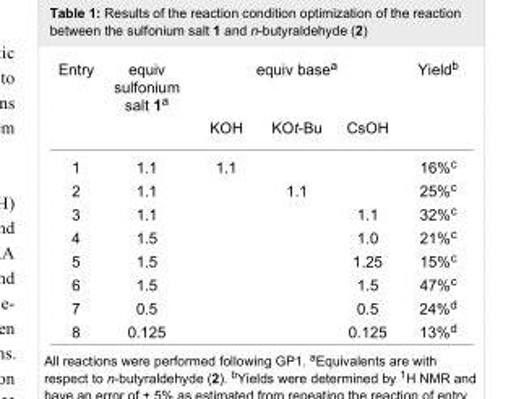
<table><tbody><tr><td rowspan="2">Entry</td><td>equiv sulfonium salt 1<sup>a</sup></td><td colspan="3">equiv base<sup>a</sup></td><td>Yield<sup>b</sup></td></tr><tr><td></td><td>KOH</td><td>KOt-Bu</td><td>CsOH</td><td></td></tr><tr><td>1</td><td>1.1</td><td>1.1</td><td></td><td></td><td>16%<sup>c</sup></td></tr><tr><td>2</td><td>1.1</td><td></td><td>1.1</td><td></td><td>25%<sup>c</sup></td></tr><tr><td>3</td><td>1.1</td><td></td><td></td><td>1.1</td><td>32%<sup>c</sup></td></tr><tr><td>4</td><td>1.5</td><td></td><td></td><td>1.0</td><td>21%<sup>c</sup></td></tr><tr><td>5</td><td>1.5</td><td></td><td></td><td>1.25</td><td>15%<sup>c</sup></td></tr><tr><td>6</td><td>1.5</td><td></td><td></td><td>1.5</td><td>47%<sup>c</sup></td></tr><tr><td>7</td><td>0.5</td><td></td><td></td><td>0.5</td><td>24%<sup>d</sup></td></tr><tr><td>8</td><td>0.125</td><td></td><td></td><td>0.125</td><td>13%<sup>d</sup></td></tr></tbody></table>